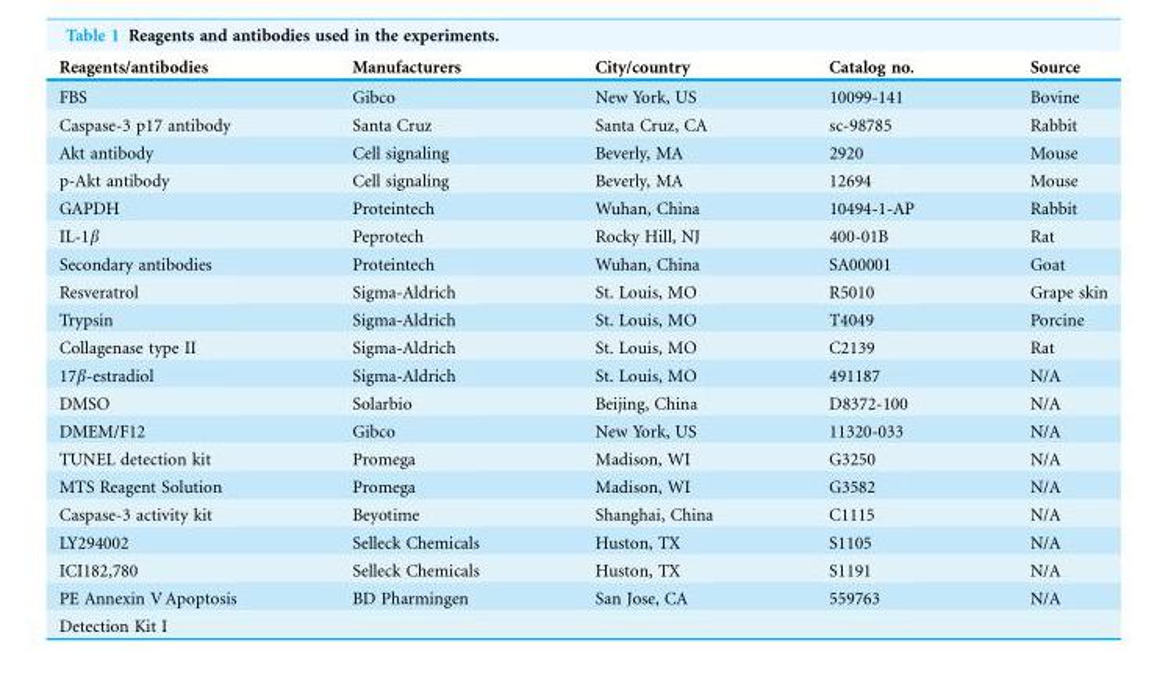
<table><thead><tr><td>Reagents/antibodies</td><td>Manufacturers</td><td>City/country</td><td>Catalog no.</td><td>Source</td></tr></thead><tbody><tr><td>FBS</td><td>Gibco</td><td>New York, US</td><td>10099-141</td><td>Bovine</td></tr><tr><td>Caspase-3 p17 antibody</td><td>Santa Cruz</td><td>Santa Cruz, CA</td><td>sc-98785</td><td>Rabbit</td></tr><tr><td>Akt antibody</td><td>Cell signaling</td><td>Beverly, MA</td><td>2920</td><td>Mouse</td></tr><tr><td>p-Akt antibody</td><td>Cell signaling</td><td>Beverly, MA</td><td>12694</td><td>Mouse</td></tr><tr><td>GAPDH</td><td>Proteintech</td><td>Wuhan, China</td><td>10494-1-AP</td><td>Rabbit</td></tr><tr><td>IL-1β</td><td>Peprotech</td><td>Rocky Hill, NJ</td><td>400-01B</td><td>Rat</td></tr><tr><td>Secondary antibodies</td><td>Proteintech</td><td>Wuhan, China</td><td>SA00001</td><td>Goat</td></tr><tr><td>Resveratrol</td><td>Sigma-Aldrich</td><td>St. Louis, MO</td><td>R5010</td><td>Grape skin</td></tr><tr><td>Trypsin</td><td>Sigma-Aldrich</td><td>St. Louis, MO</td><td>T4049</td><td>Porcine</td></tr><tr><td>Collagenase type II</td><td>Sigma-Aldrich</td><td>St. Louis, MO</td><td>C2139</td><td>Rat</td></tr><tr><td>17β-estradiol</td><td>Sigma-Aldrich</td><td>St. Louis, MO</td><td>491187</td><td>N/A</td></tr><tr><td>DMSO</td><td>Solarbio</td><td>Beijing, China</td><td>D8372-100</td><td>N/A</td></tr><tr><td>DMEM/F12</td><td>Gibco</td><td>New York, US</td><td>11320-033</td><td>N/A</td></tr><tr><td>TUNEL detection kit</td><td>Promega</td><td>Madison, WI</td><td>G3250</td><td>N/A</td></tr><tr><td>MTS Reagent Solution</td><td>Promega</td><td>Madison, WI</td><td>G3582</td><td>N/A</td></tr><tr><td>Caspase-3 activity kit</td><td>Beyotime</td><td>Shanghai, China</td><td>C1115</td><td>N/A</td></tr><tr><td>LY294002</td><td>Selleck Chemicals</td><td>Huston, TX</td><td>S1105</td><td>N/A</td></tr><tr><td>ICI182,780</td><td>Selleck Chemicals</td><td>Huston, TX</td><td>S1191</td><td>N/A</td></tr><tr><td>PE Annexin V Apoptosis</td><td>BD Pharmingen</td><td>San Jose, CA</td><td>559763</td><td>N/A</td></tr><tr><td>Detection Kit I</td><td></td><td></td><td></td><td></td></tr></tbody></table>